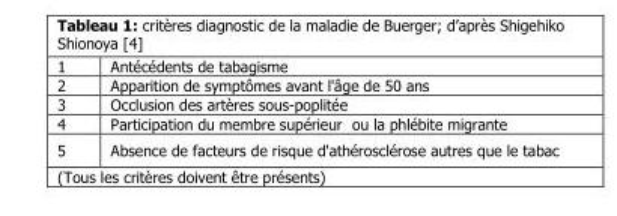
<table><tbody><tr><td>1</td><td>Antécédents de tabagisme</td></tr><tr><td>2</td><td>Apparition de symptômes avant l&#x27;âge de 50 ans</td></tr><tr><td>3</td><td>Occlusion des artères sous-poplitée</td></tr><tr><td>4</td><td>Participation du membre supérieur ou la phlébite migrante</td></tr><tr><td>5</td><td>Absence de facteurs de risque d&#x27;athérosclérose autres que le tabac</td></tr></tbody></table>